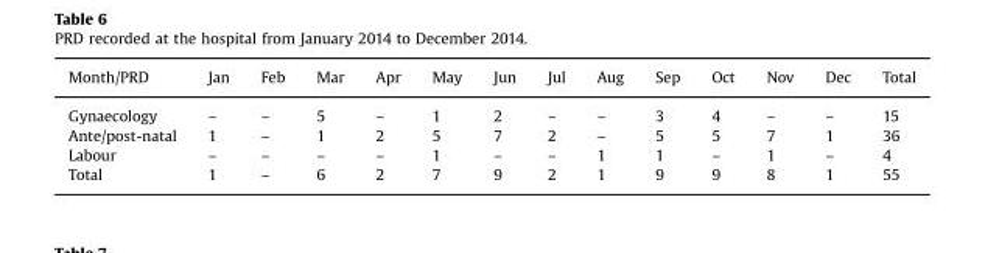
<table><thead><tr><td>Month/PRD</td><td>Jan</td><td>Feb</td><td>Mar</td><td>Apr</td><td>May</td><td>Jun</td><td>Jul</td><td>Aug</td><td>Sep</td><td>Oct</td><td>Nov</td><td>Dec</td><td>Total</td></tr></thead><tbody><tr><td>Gynaecology</td><td>–</td><td>–</td><td>5</td><td>–</td><td>1</td><td>2</td><td>–</td><td>–</td><td>3</td><td>4</td><td>–</td><td>–</td><td>15</td></tr><tr><td>Ante/post-natal</td><td>1</td><td>–</td><td>1</td><td>2</td><td>5</td><td>7</td><td>2</td><td>–</td><td>5</td><td>5</td><td>7</td><td>1</td><td>36</td></tr><tr><td>Labour</td><td>–</td><td>–</td><td>–</td><td>–</td><td>1</td><td>–</td><td>–</td><td>1</td><td>1</td><td>–</td><td>1</td><td>–</td><td>4</td></tr><tr><td>Total</td><td>1</td><td>–</td><td>6</td><td>2</td><td>7</td><td>9</td><td>2</td><td>1</td><td>9</td><td>9</td><td>8</td><td>1</td><td>55</td></tr></tbody></table>